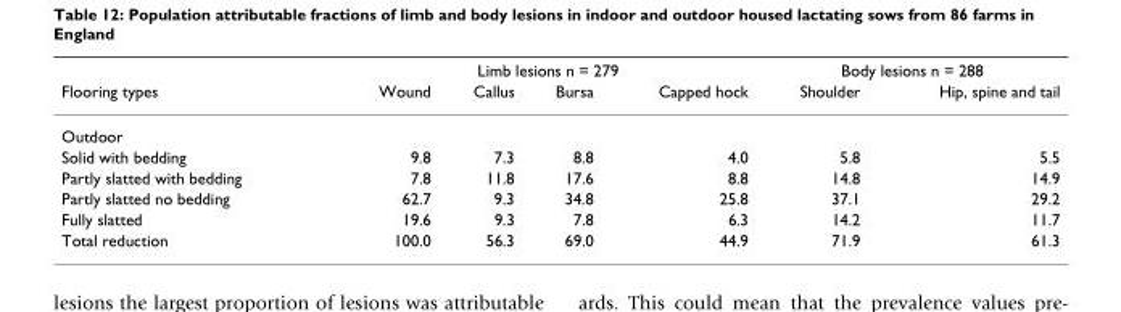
<table><thead><tr><td rowspan="2">Flooring types</td><td colspan="4">Limb lesions n = 279</td><td colspan="2">Body lesions n = 288</td></tr><tr><td>Wound</td><td>Callus</td><td>Bursa</td><td>Capped hock</td><td>Shoulder</td><td>Hip, spine and tail</td></tr></thead><tbody><tr><td colspan="7">Outdoor</td></tr><tr><td>Solid with bedding</td><td>9.8</td><td>7.3</td><td>8.8</td><td>4.0</td><td>5.8</td><td>5.5</td></tr><tr><td>Partly slatted with bedding</td><td>7.8</td><td>11.8</td><td>17.6</td><td>8.8</td><td>14.8</td><td>14.9</td></tr><tr><td>Partly slatted no bedding</td><td>62.7</td><td>9.3</td><td>34.8</td><td>25.8</td><td>37.1</td><td>29.2</td></tr><tr><td>Fully slatted</td><td>19.6</td><td>9.3</td><td>7.8</td><td>6.3</td><td>14.2</td><td>11.7</td></tr><tr><td>Total reduction</td><td>100.0</td><td>56.3</td><td>69.0</td><td>44.9</td><td>71.9</td><td>61.3</td></tr></tbody></table>